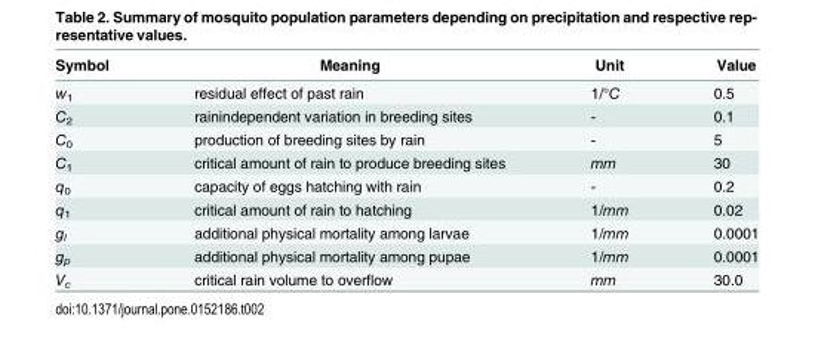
<table><thead><tr><td>Symbol</td><td>Meaning</td><td>Unit</td><td>Value</td></tr></thead><tbody><tr><td>w<sub>1</sub></td><td>residual effect of past rain</td><td>1/°C</td><td>0.5</td></tr><tr><td>C<sub>2</sub></td><td>rainindependent variation in breeding sites</td><td>-</td><td>0.1</td></tr><tr><td>C<sub>0</sub></td><td>production of breeding sites by rain</td><td>-</td><td>5</td></tr><tr><td>C<sub>1</sub></td><td>critical amount of rain to produce breeding sites</td><td>mm</td><td>30</td></tr><tr><td>q<sub>0</sub></td><td>capacity of eggs hatching with rain</td><td>-</td><td>0.2</td></tr><tr><td>q<sub>1</sub></td><td>critical amount of rain to hatching</td><td>1/mm</td><td>0.02</td></tr><tr><td>g<sub>l</sub></td><td>additional physical mortality among larvae</td><td>1/mm</td><td>0.0001</td></tr><tr><td>g<sub>p</sub></td><td>additional physical mortality among pupae</td><td>1/mm</td><td>0.0001</td></tr><tr><td>V<sub>c</sub></td><td>critical rain volume to overflow</td><td>mm</td><td>30.0</td></tr></tbody></table>